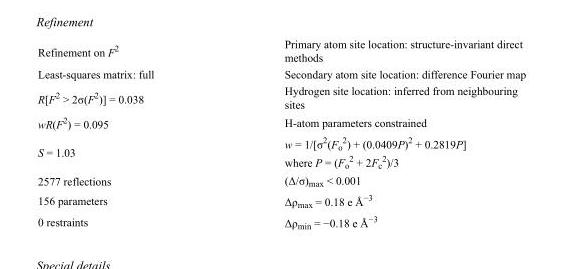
<table><tbody><tr><td>Refinement on F<sup>2</sup></td><td>Primary atom site location: structure-invariant direct methods</td></tr><tr><td>Least-squares matrix: full</td><td>Secondary atom site location: difference Fourier map</td></tr><tr><td>R[F<sup>2</sup> &gt; 2σ(F<sup>2</sup>)] = 0.038</td><td>Hydrogen site location: inferred from neighbouring sites</td></tr><tr><td>wR(F<sup>2</sup>) = 0.095</td><td>H-atom parameters constrained</td></tr><tr><td>S = 1.03</td><td>w = 1/[σ<sup>2</sup>(F<sub>o</sub> <sup>2</sup>) + (0.0409P)<sup>2</sup> + 0.2819P] where P = (F<sub>o</sub> <sup>2</sup> + 2F<sub>c</sub> <sup>2</sup>)/3</td></tr><tr><td>2577 reflections</td><td>(Δ/σ)<sub>max</sub> &lt; 0.001</td></tr><tr><td>156 parameters</td><td>Δρ<sub>max</sub> = 0.18 e Å<sup>−3</sup></td></tr><tr><td>0 restraints</td><td>Δρ<sub>min</sub> = −0.18 e Å<sup>−3</sup></td></tr></tbody></table>